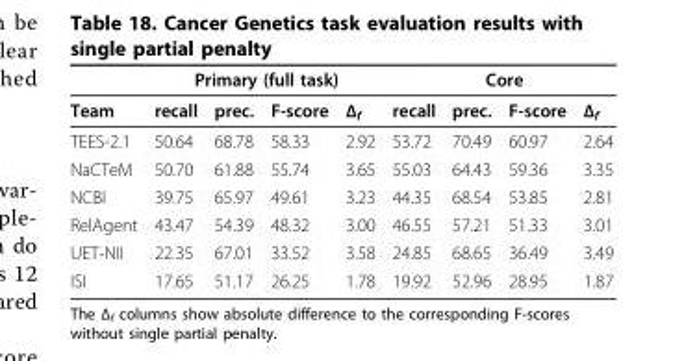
<table><thead><tr><td rowspan="2">Team</td><td colspan="4">Primary (full task)</td><td colspan="4">Core</td></tr><tr><td>recall</td><td>prec.</td><td>F-score</td><td>Δ<sub>f</sub></td><td>recall</td><td>prec.</td><td>F-score</td><td>Δ<sub>f</sub></td></tr></thead><tbody><tr><td>TEES-2.1</td><td>50.64</td><td>68.78</td><td>58.33</td><td>2.92</td><td>53.72</td><td>70.49</td><td>60.97</td><td>2.64</td></tr><tr><td>NaCTeM</td><td>50.70</td><td>61.88</td><td>55.74</td><td>3.65</td><td>55.03</td><td>64.43</td><td>59.36</td><td>3.35</td></tr><tr><td>NCBI</td><td>39.75</td><td>65.97</td><td>49.61</td><td>3.23</td><td>44.35</td><td>68.54</td><td>53.85</td><td>2.81</td></tr><tr><td>RelAgent</td><td>43.47</td><td>54.39</td><td>48.32</td><td>3.00</td><td>46.55</td><td>57.21</td><td>51.33</td><td>3.01</td></tr><tr><td>UET-NII</td><td>22.35</td><td>67.01</td><td>33.52</td><td>3.58</td><td>24.85</td><td>68.65</td><td>36.49</td><td>3.49</td></tr><tr><td>ISI</td><td>17.65</td><td>51.17</td><td>26.25</td><td>1.78</td><td>19.92</td><td>52.96</td><td>28.95</td><td>1.87</td></tr></tbody></table>